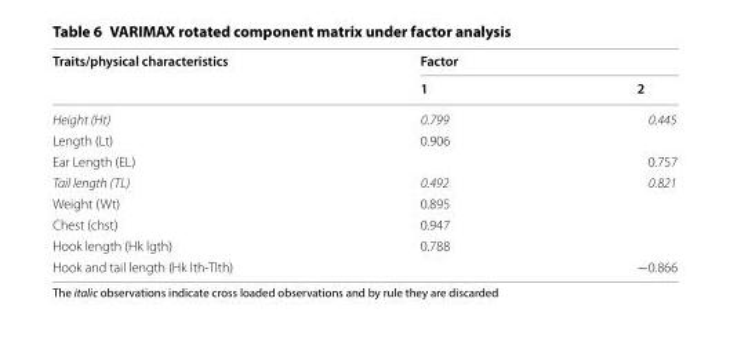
<table><thead><tr><td rowspan="2">Traits/physical characteristics</td><td colspan="2">Factor</td></tr><tr><td>1</td><td>2</td></tr></thead><tbody><tr><td>Height (Ht)</td><td>0.799</td><td>0.445</td></tr><tr><td>Length (Lt)</td><td>0.906</td><td></td></tr><tr><td>Ear Length (EL)</td><td></td><td>0.757</td></tr><tr><td>Tail length (TL)</td><td>0.492</td><td>0.821</td></tr><tr><td>Weight (Wt)</td><td>0.895</td><td></td></tr><tr><td>Chest (chst)</td><td>0.947</td><td></td></tr><tr><td>Hook length (Hk lgth)</td><td>0.788</td><td></td></tr><tr><td>Hook and tail length (Hk lth‑Tlth)</td><td></td><td>−0.866</td></tr></tbody></table>